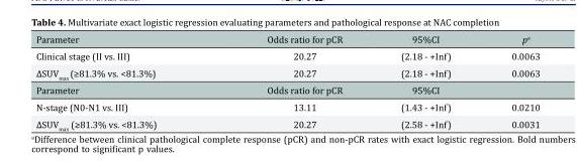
<table><thead><tr><td>Parameter</td><td>Odds ratio for pCR</td><td>95%CI</td><td>p<sup>a</sup></td></tr></thead><tbody><tr><td>Clinical stage (II vs. III)</td><td>20.27</td><td>(2.18 - +Inf)</td><td>0.0063</td></tr><tr><td>ΔSUV<sub>max</sub> (≥81.3% vs. &lt;81.3%)</td><td>20.27</td><td>(2.18 - +Inf)</td><td>0.0063</td></tr><tr><td>Parameter</td><td>Odds ratio for pCR</td><td>95%CI</td><td></td></tr><tr><td>N-stage (N0-N1 vs. III)</td><td>13.11</td><td>(1.43 - +Inf)</td><td>0.0210</td></tr><tr><td>ΔSUV<sub>max</sub> (≥81.3% vs. &lt;81.3%)</td><td>20.27</td><td>(2.58 - +Inf)</td><td>0.0031</td></tr></tbody></table>